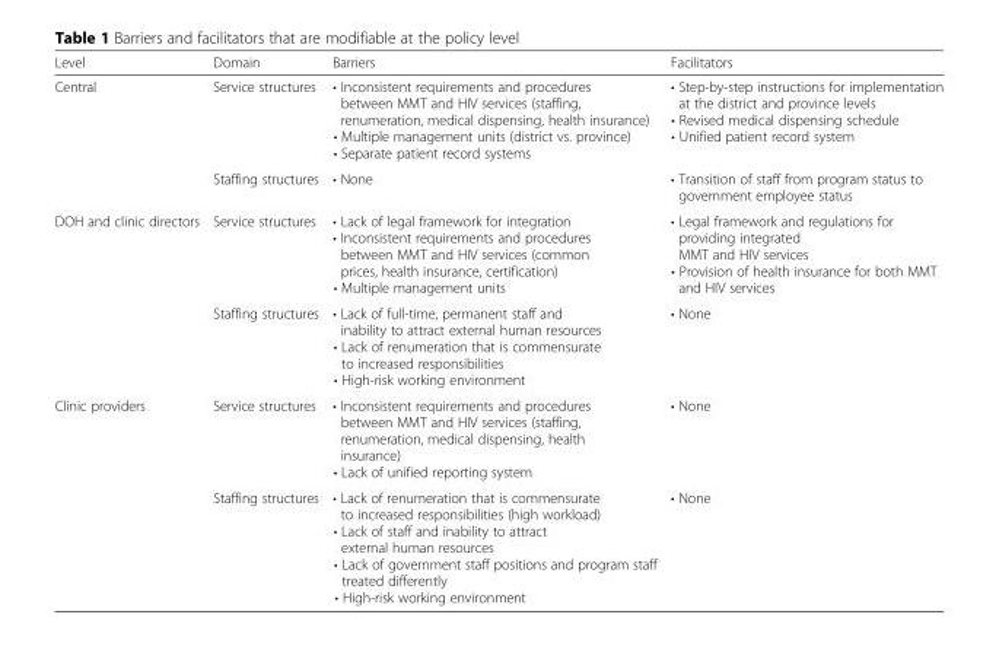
<table><thead><tr><td>Level</td><td>Domain</td><td>Barriers</td><td>Facilitators</td></tr></thead><tbody><tr><td rowspan="2">Central</td><td>Service structures</td><td>• Inconsistent requirements and procedures between MMT and HIV services (staffing, renumeration, medical dispensing, health insurance) • Multiple management units (district vs. province) • Separate patient record systems</td><td>• Step-by-step instructions for implementation at the district and province levels • Revised medical dispensing schedule • Unified patient record system</td></tr><tr><td>Staffing structures</td><td>• None</td><td>• Transition of staff from program status to government employee status</td></tr><tr><td rowspan="2">DOH and clinic directors</td><td>Service structures</td><td>• Lack of legal framework for integration • Inconsistent requirements and procedures between MMT and HIV services (common prices, health insurance, certification) • Multiple management units</td><td>• Legal framework and regulations for providing integrated MMT and HIV services • Provision of health insurance for both MMT and HIV services</td></tr><tr><td>Staffing structures</td><td>• Lack of full-time, permanent staff and inability to attract external human resources • Lack of renumeration that is commensurate to increased responsibilities • High-risk working environment</td><td>• None</td></tr><tr><td rowspan="2">Clinic providers</td><td>Service structures</td><td>• Inconsistent requirements and procedures between MMT and HIV services (staffing, renumeration, medical dispensing, health insurance) • Lack of unified reporting system</td><td>• None</td></tr><tr><td>Staffing structures</td><td>• Lack of renumeration that is commensurate to increased responsibilities (high workload) • Lack of staff and inability to attract external human resources • Lack of government staff positions and program staff treated differently • High-risk working environment</td><td>• None</td></tr></tbody></table>